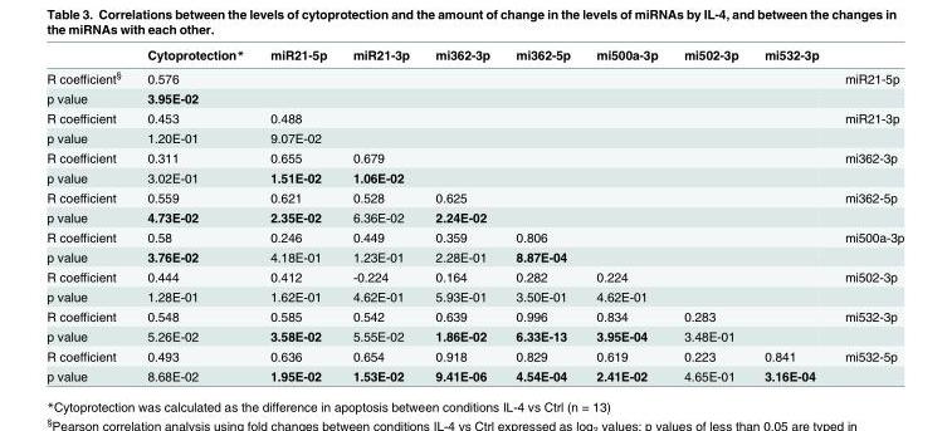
<table><thead><tr><td></td><td>Cytoprotection*</td><td>miR21-5p</td><td>miR21-3p</td><td>mi362-3p</td><td>mi362-5p</td><td>mi500a-3p</td><td>mi502-3p</td><td>mi532-3p</td><td></td></tr></thead><tbody><tr><td>R coefficient<sup>§</sup></td><td>0.576</td><td></td><td></td><td></td><td></td><td></td><td></td><td></td><td>miR21-5p</td></tr><tr><td>p value</td><td>3.95E-02</td><td></td><td></td><td></td><td></td><td></td><td></td><td></td><td></td></tr><tr><td>R coefficient</td><td>0.453</td><td>0.488</td><td></td><td></td><td></td><td></td><td></td><td></td><td>miR21-3p</td></tr><tr><td>p value</td><td>1.20E-01</td><td>9.07E-02</td><td></td><td></td><td></td><td></td><td></td><td></td><td></td></tr><tr><td>R coefficient</td><td>0.311</td><td>0.655</td><td>0.679</td><td></td><td></td><td></td><td></td><td></td><td>mi362-3p</td></tr><tr><td>p value</td><td>3.02E-01</td><td>1.51E-02</td><td>1.06E-02</td><td></td><td></td><td></td><td></td><td></td><td></td></tr><tr><td>R coefficient</td><td>0.559</td><td>0.621</td><td>0.528</td><td>0.625</td><td></td><td></td><td></td><td></td><td>mi362-5p</td></tr><tr><td>p value</td><td>4.73E-02</td><td>2.35E-02</td><td>6.36E-02</td><td>2.24E-02</td><td></td><td></td><td></td><td></td><td></td></tr><tr><td>R coefficient</td><td>0.58</td><td>0.246</td><td>0.449</td><td>0.359</td><td>0.806</td><td></td><td></td><td></td><td>mi500a-3p</td></tr><tr><td>p value</td><td>3.76E-02</td><td>4.18E-01</td><td>1.23E-01</td><td>2.28E-01</td><td>8.87E-04</td><td></td><td></td><td></td><td></td></tr><tr><td>R coefficient</td><td>0.444</td><td>0.412</td><td>-0.224</td><td>0.164</td><td>0.282</td><td>0.224</td><td></td><td></td><td>mi502-3p</td></tr><tr><td>p value</td><td>1.28E-01</td><td>1.62E-01</td><td>4.62E-01</td><td>5.93E-01</td><td>3.50E-01</td><td>4.62E-01</td><td></td><td></td><td></td></tr><tr><td>R coefficient</td><td>0.548</td><td>0.585</td><td>0.542</td><td>0.639</td><td>0.996</td><td>0.834</td><td>0.283</td><td></td><td>mi532-3p</td></tr><tr><td>p value</td><td>5.26E-02</td><td>3.58E-02</td><td>5.55E-02</td><td>1.86E-02</td><td>6.33E-13</td><td>3.95E-04</td><td>3.48E-01</td><td></td><td></td></tr><tr><td>R coefficient</td><td>0.493</td><td>0.636</td><td>0.654</td><td>0.918</td><td>0.829</td><td>0.619</td><td>0.223</td><td>0.841</td><td>mi532-5p</td></tr><tr><td>p value</td><td>8.68E-02</td><td>1.95E-02</td><td>1.53E-02</td><td>9.41E-06</td><td>4.54E-04</td><td>2.41E-02</td><td>4.65E-01</td><td>3.16E-04</td><td></td></tr></tbody></table>